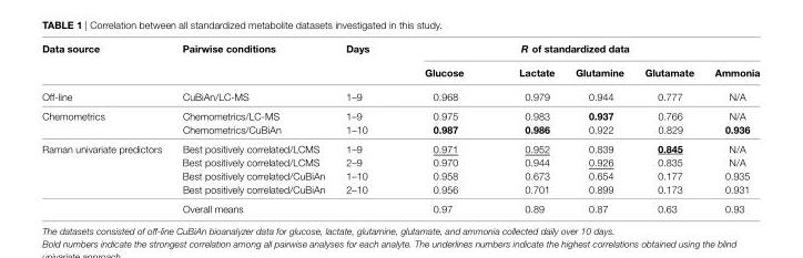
<table><thead><tr><td rowspan="2">Data source</td><td rowspan="2">Pairwise conditions</td><td rowspan="2">Days</td><td colspan="5">R of standardized data</td></tr><tr><td>glucose</td><td>lactate</td><td>glutamine</td><td>glutamate</td><td>ammonia</td></tr></thead><tbody><tr><td>Off-line</td><td>CuBiAn/LC-MS</td><td>1–9</td><td>0.968</td><td>0.979</td><td>0.944</td><td>0.777</td><td>N/A</td></tr><tr><td rowspan="2">Chemometrics</td><td>Chemometrics/LC-MS</td><td>1–9</td><td>0.975</td><td>0.983</td><td>0.937</td><td>0.766</td><td>N/A</td></tr><tr><td>Chemometrics/CuBiAn</td><td>1–10</td><td>0.987</td><td>0.986</td><td>0.922</td><td>0.829</td><td>0.936</td></tr><tr><td rowspan="5">Raman univariate predictors</td><td>Best positively correlated/LCMS</td><td>1–9</td><td>0.971</td><td>0.952</td><td>0.839</td><td>0.845</td><td>N/A</td></tr><tr><td>Best positively correlated/LCMS</td><td>2–9</td><td>0.970</td><td>0.944</td><td>0.926</td><td>0.835</td><td>N/A</td></tr><tr><td>Best positively correlated/CuBiAn</td><td>1–10</td><td>0.958</td><td>0.673</td><td>0.654</td><td>0.177</td><td>0.935</td></tr><tr><td>Best positively correlated/CuBiAn</td><td>2–10</td><td>0.956</td><td>0.701</td><td>0.899</td><td>0.173</td><td>0.931</td></tr><tr><td>Overall means</td><td></td><td>0.97</td><td>0.89</td><td>0.87</td><td>0.63</td><td>0.93</td></tr></tbody></table>